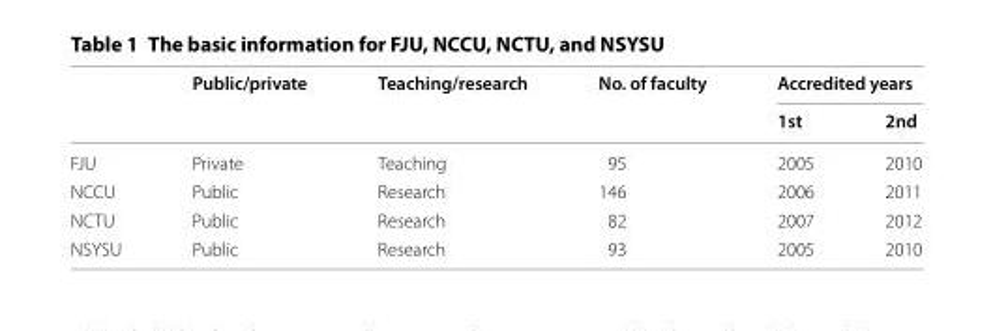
<table><thead><tr><td rowspan="2"></td><td rowspan="2">Public/private</td><td rowspan="2">Teaching/research</td><td rowspan="2">No. of faculty</td><td colspan="2">Accredited years</td></tr><tr><td>1st</td><td>2nd</td></tr></thead><tbody><tr><td>FJU</td><td>Private</td><td>Teaching</td><td>95</td><td>2005</td><td>2010</td></tr><tr><td>NCCU</td><td>Public</td><td>Research</td><td>146</td><td>2006</td><td>2011</td></tr><tr><td>NCTU</td><td>Public</td><td>Research</td><td>82</td><td>2007</td><td>2012</td></tr><tr><td>NSYSU</td><td>Public</td><td>Research</td><td>93</td><td>2005</td><td>2010</td></tr></tbody></table>